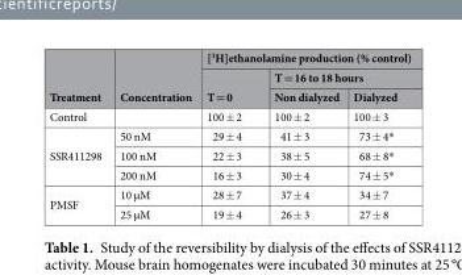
<table><thead><tr><td rowspan="3">Treatment</td><td rowspan="3">Concentration</td><td colspan="3">[<sup>3</sup>H]ethanolamine production (% control)</td></tr><tr><td rowspan="2">T = 0</td><td colspan="2">T = 16 to 18 hours</td></tr><tr><td>Non dialyzed</td><td>Dialyzed</td></tr></thead><tbody><tr><td>Control</td><td></td><td>100 ± 2</td><td>100 ± 2</td><td>100 ± 3</td></tr><tr><td rowspan="3">SSR411298</td><td>50 nM</td><td>29 ± 4</td><td>41 ± 3</td><td>73 ± 4*</td></tr><tr><td>100 nM</td><td>22 ± 3</td><td>38 ± 5</td><td>68 ± 8*</td></tr><tr><td>200 nM</td><td>16 ± 3</td><td>30 ± 4</td><td>74 ± 5*</td></tr><tr><td rowspan="2">PMSF</td><td>10 µM</td><td>28 ± 7</td><td>37 ± 4</td><td>34 ± 7</td></tr><tr><td>25 µM</td><td>19 ± 4</td><td>26 ± 3</td><td>27 ± 8</td></tr></tbody></table>